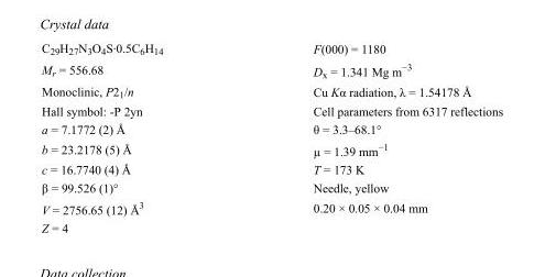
<table><tbody><tr><td>C<sub>29</sub>H<sub>27</sub>N<sub>3</sub>O<sub>4</sub>S·0.5C<sub>6</sub>H<sub>14</sub></td><td>F(000) = 1180</td></tr><tr><td>M<sub>r</sub> = 556.68</td><td>D<sub>x</sub> = 1.341 Mg m<sup>−3</sup></td></tr><tr><td>Monoclinic, P2<sub>1</sub>/n</td><td>Cu Kα radiation, λ = 1.54178 Å</td></tr><tr><td>Hall symbol: -P 2yn</td><td>Cell parameters from 6317 reflections</td></tr><tr><td>a = 7.1772 (2) Å</td><td>θ = 3.3–68.1°</td></tr><tr><td>b = 23.2178 (5) Å</td><td>µ = 1.39 mm<sup>−1</sup></td></tr><tr><td>c = 16.7740 (4) Å</td><td>T = 173 K</td></tr><tr><td>β = 99.526 (1)°</td><td>Needle, yellow</td></tr><tr><td>V = 2756.65 (12) Å<sup>3</sup></td><td>0.20 × 0.05 × 0.04 mm</td></tr><tr><td>Z = 4</td><td></td></tr></tbody></table>